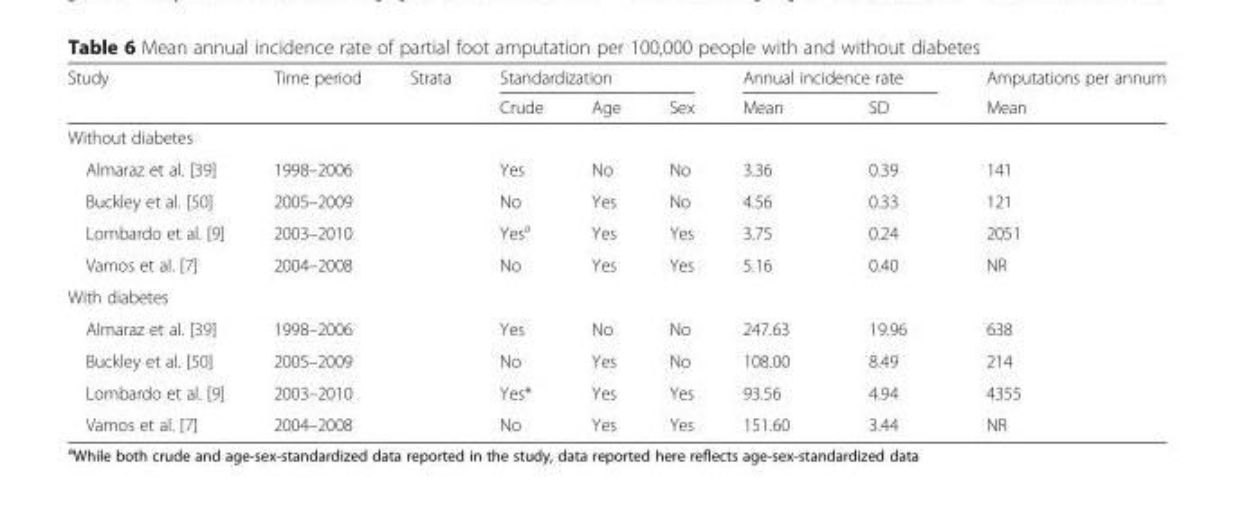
<table><thead><tr><td rowspan="2">Study</td><td rowspan="2">Time period</td><td rowspan="2">Strata</td><td colspan="3">Standardization</td><td colspan="2">Annual incidence rate</td><td rowspan="2">Amputations per annum Mean</td></tr><tr><td>Crude</td><td>Age</td><td>Sex</td><td>Mean</td><td>SD</td></tr></thead><tbody><tr><td colspan="9">Without diabetes</td></tr><tr><td>Almaraz et al. [39]</td><td>1998–2006</td><td></td><td>Yes</td><td>No</td><td>No</td><td>3.36</td><td>0.39</td><td>141</td></tr><tr><td>Buckley et al. [50]</td><td>2005–2009</td><td></td><td>No</td><td>Yes</td><td>No</td><td>4.56</td><td>0.33</td><td>121</td></tr><tr><td>Lombardo et al. [9]</td><td>2003–2010</td><td></td><td>Yes<sup>a</sup></td><td>Yes</td><td>Yes</td><td>3.75</td><td>0.24</td><td>2051</td></tr><tr><td>Vamos et al. [7]</td><td>2004–2008</td><td></td><td>No</td><td>Yes</td><td>Yes</td><td>5.16</td><td>0.40</td><td>NR</td></tr><tr><td colspan="9">With diabetes</td></tr><tr><td>Almaraz et al. [39]</td><td>1998–2006</td><td></td><td>Yes</td><td>No</td><td>No</td><td>247.63</td><td>19.96</td><td>638</td></tr><tr><td>Buckley et al. [50]</td><td>2005–2009</td><td></td><td>No</td><td>Yes</td><td>No</td><td>108.00</td><td>8.49</td><td>214</td></tr><tr><td>Lombardo et al. [9]</td><td>2003–2010</td><td></td><td>Yes*</td><td>Yes</td><td>Yes</td><td>93.56</td><td>4.94</td><td>4355</td></tr><tr><td>Vamos et al. [7]</td><td>2004–2008</td><td></td><td>No</td><td>Yes</td><td>Yes</td><td>151.60</td><td>3.44</td><td>NR</td></tr></tbody></table>